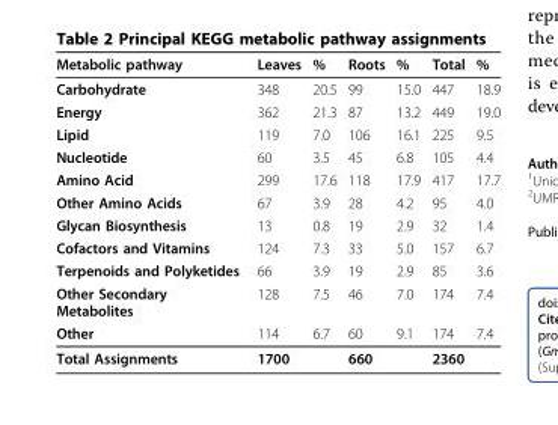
<table><thead><tr><td>Metabolic pathway</td><td>Leaves</td><td>%</td><td>Roots</td><td>%</td><td>Total</td><td>%</td></tr></thead><tbody><tr><td>Carbohydrate</td><td>348</td><td>20.5</td><td>99</td><td>15.0</td><td>447</td><td>18.9</td></tr><tr><td>Energy</td><td>362</td><td>21.3</td><td>87</td><td>13.2</td><td>449</td><td>19.0</td></tr><tr><td>Lipid</td><td>119</td><td>7.0</td><td>106</td><td>16.1</td><td>225</td><td>9.5</td></tr><tr><td>Nucleotide</td><td>60</td><td>3.5</td><td>45</td><td>6.8</td><td>105</td><td>4.4</td></tr><tr><td>Amino Acid</td><td>299</td><td>17.6</td><td>118</td><td>17.9</td><td>417</td><td>17.7</td></tr><tr><td>Other Amino Acids</td><td>67</td><td>3.9</td><td>28</td><td>4.2</td><td>95</td><td>4.0</td></tr><tr><td>Glycan Biosynthesis</td><td>13</td><td>0.8</td><td>19</td><td>2.9</td><td>32</td><td>1.4</td></tr><tr><td>Cofactors and Vitamins</td><td>124</td><td>7.3</td><td>33</td><td>5.0</td><td>157</td><td>6.7</td></tr><tr><td>Terpenoids and Polyketides</td><td>66</td><td>3.9</td><td>19</td><td>2.9</td><td>85</td><td>3.6</td></tr><tr><td>Other Secondary Metabolites</td><td>128</td><td>7.5</td><td>46</td><td>7.0</td><td>174</td><td>7.4</td></tr><tr><td>Other</td><td>114</td><td>6.7</td><td>60</td><td>9.1</td><td>174</td><td>7.4</td></tr><tr><td>Total Assignments</td><td>1700</td><td></td><td>660</td><td></td><td>2360</td><td></td></tr></tbody></table>